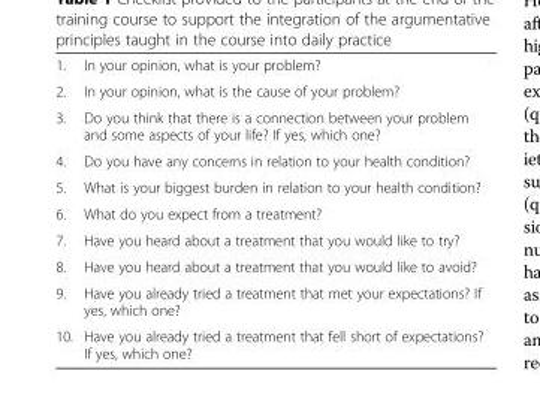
<table><tbody><tr><td>1.</td><td>In your opinion, what is your problem?</td></tr><tr><td>2.</td><td>In your opinion, what is the cause of your problem?</td></tr><tr><td>3.</td><td>Do you think that there is a connection between your problem and some aspects of your life? If yes, which one?</td></tr><tr><td>4.</td><td>Do you have any concerns in relation to your health condition?</td></tr><tr><td>5.</td><td>What is your biggest burden in relation to your health condition?</td></tr><tr><td>6.</td><td>What do you expect from a treatment?</td></tr><tr><td>7.</td><td>Have you heard about a treatment that you would like to try?</td></tr><tr><td>8.</td><td>Have you heard about a treatment that you would like to avoid?</td></tr><tr><td>9.</td><td>Have you already tried a treatment that met your expectations? If yes, which one?</td></tr><tr><td>10.</td><td>Have you already tried a treatment that fell short of expectations? If yes, which one?</td></tr></tbody></table>